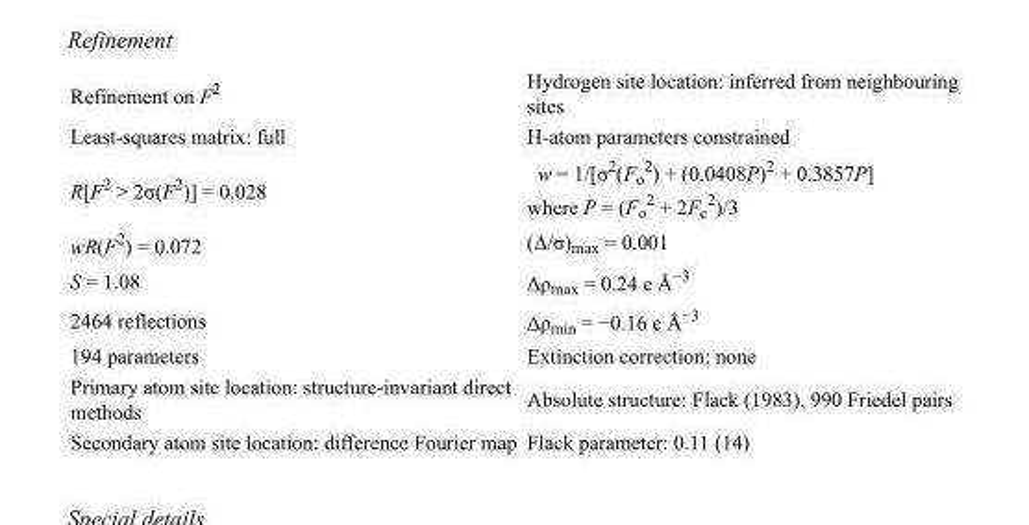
<table><tbody><tr><td>Refinement on F<sup>2</sup></td><td>Hydrogen site location: inferred from neighbouring sites</td></tr><tr><td>Least-squares matrix: full</td><td>H-atom parameters constrained</td></tr><tr><td>R[F<sup>2</sup> &gt; 2σ(F<sup>2</sup>)] = 0.028</td><td>w = 1/[σ<sup>2</sup>(F<sub>o</sub> <sup>2</sup>) + (0.0408P)<sup>2</sup> + 0.3857P] where P = (F<sub>o</sub> <sup>2</sup> + 2F<sub>c</sub> <sup>2</sup>)/3</td></tr><tr><td>wR(F<sup>2</sup>) = 0.072</td><td>(Δ/σ)<sub>max</sub> = 0.001</td></tr><tr><td>S = 1.08</td><td>Δρ<sub>max</sub> = 0.24 e Å<sup>−3</sup></td></tr><tr><td>2464 reflections</td><td>Δρ<sub>min</sub> = −0.16 e Å<sup>−3</sup></td></tr><tr><td>194 parameters</td><td>Extinction correction: none</td></tr><tr><td>Primary atom site location: structure-invariant direct methods</td><td>Absolute structure: Flack (1983), 990 Friedel pairs</td></tr><tr><td>Secondary atom site location: difference Fourier map</td><td>Flack parameter: 0.11 (14)</td></tr></tbody></table>